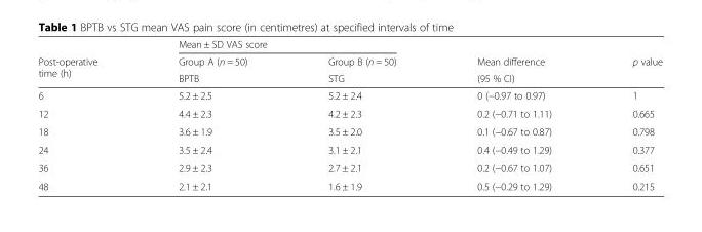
<table><thead><tr><td rowspan="3">Post-operative time (h)</td><td colspan="2">Mean ± SD VAS score</td><td rowspan="3">Mean difference (95 % CI)</td><td rowspan="3">p value</td></tr><tr><td rowspan="2">Group A (n = 50) BPTB</td><td rowspan="2">Group B (n = 50) STG</td></tr><tr></tr></thead><tbody><tr><td>6</td><td>5.2 ± 2.5</td><td>5.2 ± 2.4</td><td>0 (−0.97 to 0.97)</td><td>1</td></tr><tr><td>12</td><td>4.4 ± 2.3</td><td>4.2 ± 2.3</td><td>0.2 (−0.71 to 1.11)</td><td>0.665</td></tr><tr><td>18</td><td>3.6 ± 1.9</td><td>3.5 ± 2.0</td><td>0.1 (−0.67 to 0.87)</td><td>0.798</td></tr><tr><td>24</td><td>3.5 ± 2.4</td><td>3.1 ± 2.1</td><td>0.4 (−0.49 to 1.29)</td><td>0.377</td></tr><tr><td>36</td><td>2.9 ± 2.3</td><td>2.7 ± 2.1</td><td>0.2 (−0.67 to 1.07)</td><td>0.651</td></tr><tr><td>48</td><td>2.1 ± 2.1</td><td>1.6 ± 1.9</td><td>0.5 (−0.29 to 1.29)</td><td>0.215</td></tr></tbody></table>